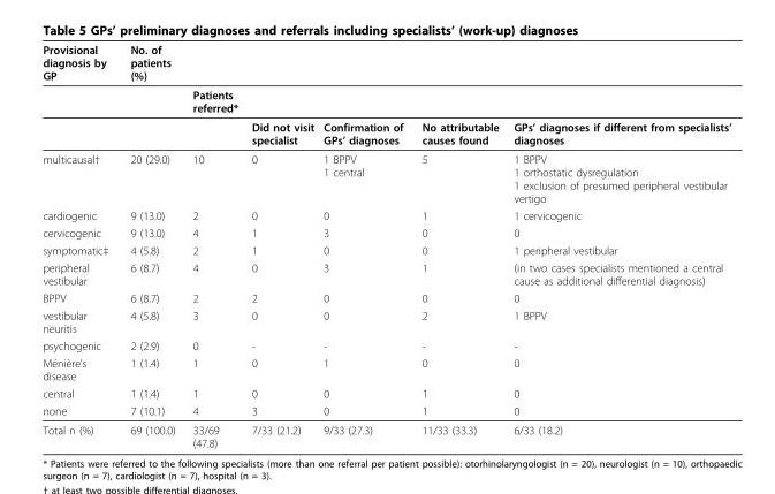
<table><thead><tr><td>Provisional diagnosis by GP</td><td>No. of patients (%)</td><td></td><td></td><td></td><td></td><td></td></tr></thead><tbody><tr><td></td><td></td><td>Patients referred*</td><td></td><td></td><td></td><td></td></tr><tr><td></td><td></td><td></td><td>Did not visit specialist</td><td>Confirmation of GPs’ diagnoses</td><td>No attributable causes found</td><td>GPs’ diagnoses if different from specialists’ diagnoses</td></tr><tr><td>multicausal†</td><td>20 (29.0)</td><td>10</td><td>0</td><td>1 BPPV 1 central</td><td>5</td><td>1 BPPV 1 orthostatic dysregulation 1 exclusion of presumed peripheral vestibular vertigo</td></tr><tr><td>cardiogenic</td><td>9 (13.0)</td><td>2</td><td>0</td><td>0</td><td>1</td><td>1 cervicogenic</td></tr><tr><td>cervicogenic</td><td>9 (13.0)</td><td>4</td><td>1</td><td>3</td><td>0</td><td>0</td></tr><tr><td>symptomatic‡</td><td>4 (5.8)</td><td>2</td><td>1</td><td>0</td><td>0</td><td>1 peripheral vestibular</td></tr><tr><td>peripheral vestibular</td><td>6 (8.7)</td><td>4</td><td>0</td><td>3</td><td>1</td><td>(in two cases specialists mentioned a central cause as additional differential diagnosis)</td></tr><tr><td>BPPV</td><td>6 (8.7)</td><td>2</td><td>2</td><td>0</td><td>0</td><td>0</td></tr><tr><td>vestibular neuritis</td><td>4 (5.8)</td><td>3</td><td>0</td><td>0</td><td>2</td><td>1 BPPV</td></tr><tr><td>psychogenic</td><td>2 (2.9)</td><td>0</td><td>-</td><td>-</td><td>-</td><td>-</td></tr><tr><td>Ménière’s disease</td><td>1 (1.4)</td><td>1</td><td>0</td><td>1</td><td>0</td><td>0</td></tr><tr><td>central</td><td>1 (1.4)</td><td>1</td><td>0</td><td>0</td><td>1</td><td>0</td></tr><tr><td>none</td><td>7 (10.1)</td><td>4</td><td>3</td><td>0</td><td>1</td><td>0</td></tr><tr><td>Total n (%)</td><td>69 (100.0)</td><td>33/69 (47.8)</td><td>7/33 (21.2)</td><td>9/33 (27.3)</td><td>11/33 (33.3)</td><td>6/33 (18.2)</td></tr></tbody></table>